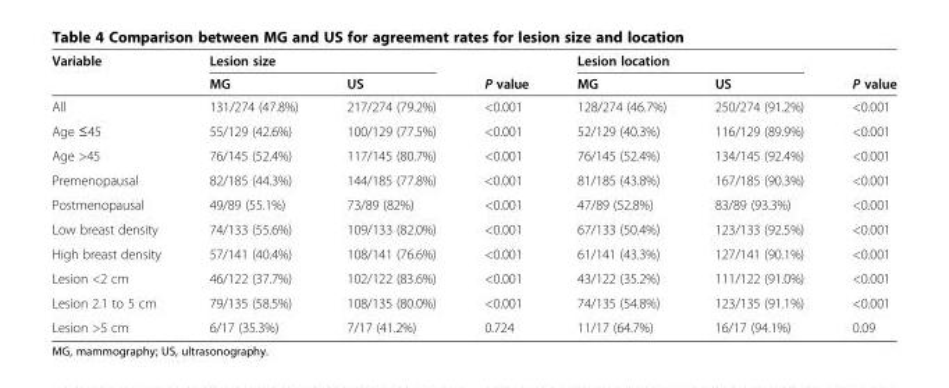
<table><thead><tr><td rowspan="2">Variable</td><td colspan="2">Lesion size</td><td rowspan="2">P value</td><td colspan="2">Lesion location</td><td rowspan="2">P value</td></tr><tr><td>MG</td><td>US</td><td>MG</td><td>US</td></tr></thead><tbody><tr><td>All</td><td>131/274 (47.8%)</td><td>217/274 (79.2%)</td><td>&lt;0.001</td><td>128/274 (46.7%)</td><td>250/274 (91.2%)</td><td>&lt;0.001</td></tr><tr><td>Age ≤45</td><td>55/129 (42.6%)</td><td>100/129 (77.5%)</td><td>&lt;0.001</td><td>52/129 (40.3%)</td><td>116/129 (89.9%)</td><td>&lt;0.001</td></tr><tr><td>Age &gt;45</td><td>76/145 (52.4%)</td><td>117/145 (80.7%)</td><td>&lt;0.001</td><td>76/145 (52.4%)</td><td>134/145 (92.4%)</td><td>&lt;0.001</td></tr><tr><td>Premenopausal</td><td>82/185 (44.3%)</td><td>144/185 (77.8%)</td><td>&lt;0.001</td><td>81/185 (43.8%)</td><td>167/185 (90.3%)</td><td>&lt;0.001</td></tr><tr><td>Postmenopausal</td><td>49/89 (55.1%)</td><td>73/89 (82%)</td><td>&lt;0.001</td><td>47/89 (52.8%)</td><td>83/89 (93.3%)</td><td>&lt;0.001</td></tr><tr><td>Low breast density</td><td>74/133 (55.6%)</td><td>109/133 (82.0%)</td><td>&lt;0.001</td><td>67/133 (50.4%)</td><td>123/133 (92.5%)</td><td>&lt;0.001</td></tr><tr><td>High breast density</td><td>57/141 (40.4%)</td><td>108/141 (76.6%)</td><td>&lt;0.001</td><td>61/141 (43.3%)</td><td>127/141 (90.1%)</td><td>&lt;0.001</td></tr><tr><td>Lesion &lt;2 cm</td><td>46/122 (37.7%)</td><td>102/122 (83.6%)</td><td>&lt;0.001</td><td>43/122 (35.2%)</td><td>111/122 (91.0%)</td><td>&lt;0.001</td></tr><tr><td>Lesion 2.1 to 5 cm</td><td>79/135 (58.5%)</td><td>108/135 (80.0%)</td><td>&lt;0.001</td><td>74/135 (54.8%)</td><td>123/135 (91.1%)</td><td>&lt;0.001</td></tr><tr><td>Lesion &gt;5 cm</td><td>6/17 (35.3%)</td><td>7/17 (41.2%)</td><td>0.724</td><td>11/17 (64.7%)</td><td>16/17 (94.1%)</td><td>0.09</td></tr></tbody></table>